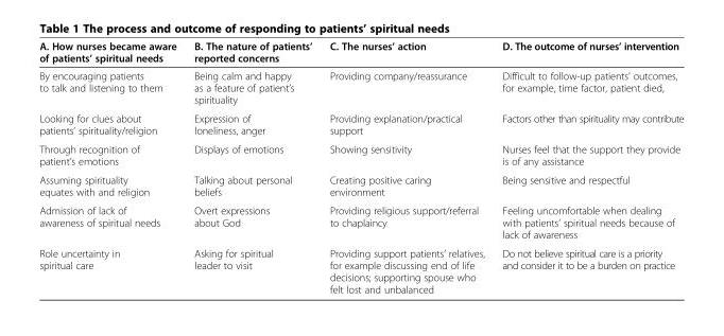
<table><thead><tr><td>A. How nurses became aware of patients’ spiritual needs</td><td>B. The nature of patients’ reported concerns</td><td>C. The nurses’ action</td><td>D. The outcome of nurses’ intervention</td></tr></thead><tbody><tr><td>By encouraging patients to talk and listening to them</td><td>Being calm and happy as a feature of patient’s spirituality</td><td>Providing company/reassurance</td><td>Difficult to follow-up patients’ outcomes, for example, time factor, patient died,</td></tr><tr><td>Looking for clues about patients’ spirituality/religion</td><td>Expression of loneliness, anger</td><td>Providing explanation/practical support</td><td>Factors other than spirituality may contribute</td></tr><tr><td>Through recognition of patient’s emotions</td><td>Displays of emotions</td><td>Showing sensitivity</td><td>Nurses feel that the support they provide is of any assistance</td></tr><tr><td>Assuming spirituality equates with and religion</td><td>Talking about personal beliefs</td><td>Creating positive caring environment</td><td>Being sensitive and respectful</td></tr><tr><td>Admission of lack of awareness of spiritual needs</td><td>Overt expressions about God</td><td>Providing religious support/referral to chaplaincy</td><td>Feeling uncomfortable when dealing with patients’ spiritual needs because of lack of awareness</td></tr><tr><td>Role uncertainty in spiritual care</td><td>Asking for spiritual leader to visit</td><td>Providing support patients’ relatives, for example discussing end of life decisions; supporting spouse who felt lost and unbalanced</td><td>Do not believe spiritual care is a priority and consider it to be a burden on practice</td></tr></tbody></table>